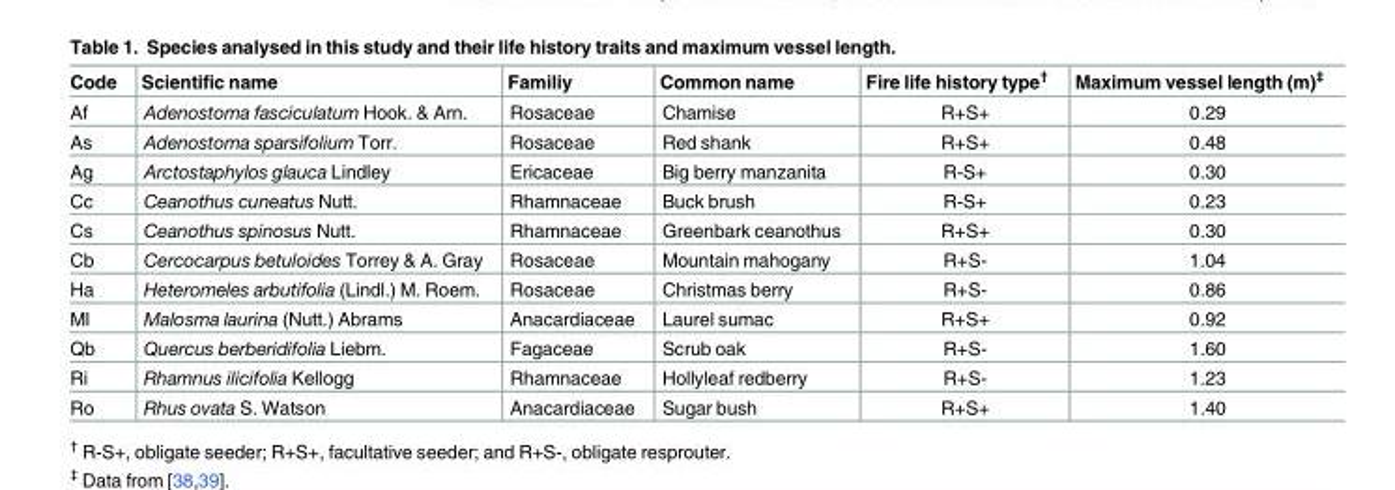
<table><thead><tr><td>Code</td><td>Scientific name</td><td>Familiy</td><td>Common name</td><td>Fire life history type<sup>†</sup></td><td>Maximum vessel length (m)<sup>‡</sup></td></tr></thead><tbody><tr><td>Af</td><td>Adenostoma fasciculatum Hook. &amp; Arn.</td><td>Rosaceae</td><td>Chamise</td><td>R+S+</td><td>0.29</td></tr><tr><td>As</td><td>Adenostoma sparsifolium Torr.</td><td>Rosaceae</td><td>Red shank</td><td>R+S+</td><td>0.48</td></tr><tr><td>Ag</td><td>Arctostaphylos glauca Lindley</td><td>Ericaceae</td><td>Big berry manzanita</td><td>R-S+</td><td>0.30</td></tr><tr><td>Cc</td><td>Ceanothus cuneatus Nutt.</td><td>Rhamnaceae</td><td>Buck brush</td><td>R-S+</td><td>0.23</td></tr><tr><td>Cs</td><td>Ceanothus spinosus Nutt.</td><td>Rhamnaceae</td><td>Greenbark ceanothus</td><td>R+S+</td><td>0.30</td></tr><tr><td>Cb</td><td>Cercocarpus betuloides Torrey &amp; A. Gray</td><td>Rosaceae</td><td>Mountain mahogany</td><td>R+S-</td><td>1.04</td></tr><tr><td>Ha</td><td>Heteromeles arbutifolia (Lindl.) M. Roem.</td><td>Rosaceae</td><td>Christmas berry</td><td>R+S-</td><td>0.86</td></tr><tr><td>Ml</td><td>Malosma laurina (Nutt.) Abrams</td><td>Anacardiaceae</td><td>Laurel sumac</td><td>R+S+</td><td>0.92</td></tr><tr><td>Qb</td><td>Quercus berberidifolia Liebm.</td><td>Fagaceae</td><td>Scrub oak</td><td>R+S-</td><td>1.60</td></tr><tr><td>Ri</td><td>Rhamnus ilicifolia Kellogg</td><td>Rhamnaceae</td><td>Hollyleaf redberry</td><td>R+S-</td><td>1.23</td></tr><tr><td>Ro</td><td>Rhus ovata S. Watson</td><td>Anacardiaceae</td><td>Sugar bush</td><td>R+S+</td><td>1.40</td></tr></tbody></table>